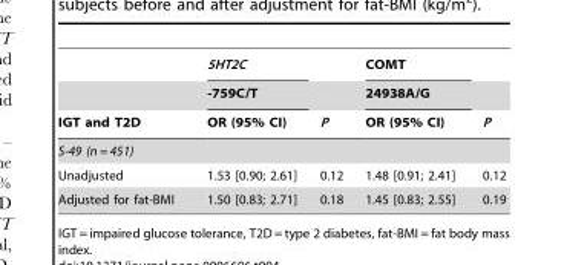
<table><thead><tr><td rowspan="3">IGT and T2D</td><td rowspan="3">5HT2C -759C/T OR (95% CI)</td><td rowspan="3">P</td><td rowspan="3">COMT 24938A/G OR (95% CI)</td><td rowspan="3">P</td></tr><tr></tr><tr></tr></thead><tbody><tr><td colspan="5">S-49 (n = 451)</td></tr><tr><td>Unadjusted</td><td>1.53 [0.90; 2.61]</td><td>0.12</td><td>1.48 [0.91; 2.41]</td><td>0.12</td></tr><tr><td>Adjusted for fat-BMI</td><td>1.50 [0.83; 2.71]</td><td>0.18</td><td>1.45 [0.83; 2.55]</td><td>0.19</td></tr></tbody></table>